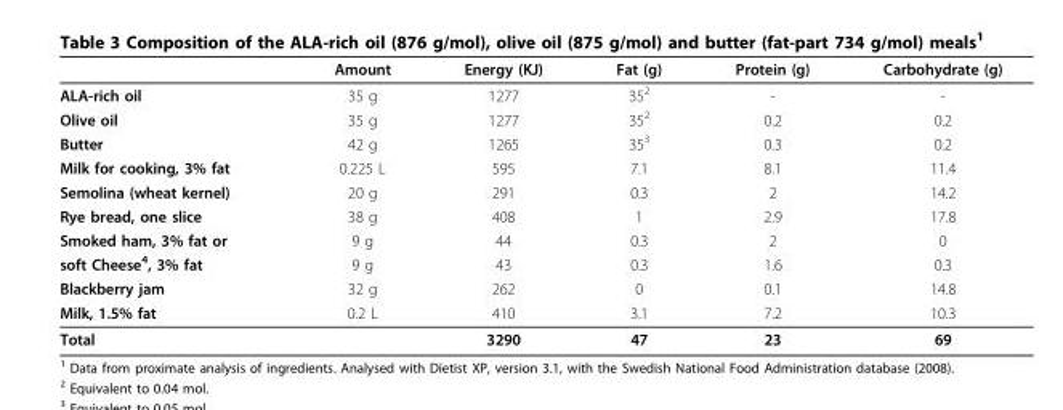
<table><thead><tr><td></td><td>Amount</td><td>Energy (KJ)</td><td>Fat (g)</td><td>Protein (g)</td><td>Carbohydrate (g)</td></tr></thead><tbody><tr><td>ALA-rich oil</td><td>35 g</td><td>1277</td><td>35<sup>2</sup></td><td>-</td><td>-</td></tr><tr><td>Olive oil</td><td>35 g</td><td>1277</td><td>35<sup>2</sup></td><td>0.2</td><td>0.2</td></tr><tr><td>Butter</td><td>42 g</td><td>1265</td><td>35<sup>3</sup></td><td>0.3</td><td>0.2</td></tr><tr><td>Milk for cooking, 3% fat</td><td>0.225 L</td><td>595</td><td>7.1</td><td>8.1</td><td>11.4</td></tr><tr><td>Semolina (wheat kernel)</td><td>20 g</td><td>291</td><td>0.3</td><td>2</td><td>14.2</td></tr><tr><td>Rye bread, one slice</td><td>38 g</td><td>408</td><td>1</td><td>2.9</td><td>17.8</td></tr><tr><td>Smoked ham, 3% fat or</td><td>9 g</td><td>44</td><td>0.3</td><td>2</td><td>0</td></tr><tr><td>soft Cheese<sup>4</sup>, 3% fat</td><td>9 g</td><td>43</td><td>0.3</td><td>1.6</td><td>0.3</td></tr><tr><td>Blackberry jam</td><td>32 g</td><td>262</td><td>0</td><td>0.1</td><td>14.8</td></tr><tr><td>Milk, 1.5% fat</td><td>0.2 L</td><td>410</td><td>3.1</td><td>7.2</td><td>10.3</td></tr><tr><td>Total</td><td></td><td>3290</td><td>47</td><td>23</td><td>69</td></tr></tbody></table>